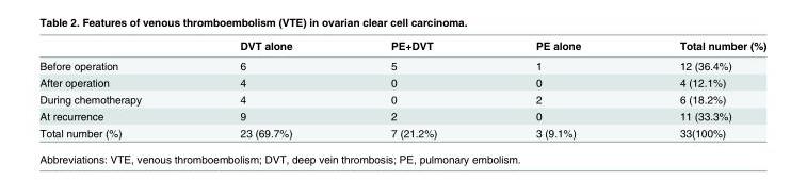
<table><thead><tr><td></td><td>DVT alone</td><td>PE+DVT</td><td>PE alone</td><td>Total number (%)</td></tr></thead><tbody><tr><td>Before operation</td><td>6</td><td>5</td><td>1</td><td>12 (36.4%)</td></tr><tr><td>After operation</td><td>4</td><td>0</td><td>0</td><td>4 (12.1%)</td></tr><tr><td>During chemotherapy</td><td>4</td><td>0</td><td>2</td><td>6 (18.2%)</td></tr><tr><td>At recurrence</td><td>9</td><td>2</td><td>0</td><td>11 (33.3%)</td></tr><tr><td>Total number (%)</td><td>23 (69.7%)</td><td>7 (21.2%)</td><td>3 (9.1%)</td><td>33(100%)</td></tr></tbody></table>